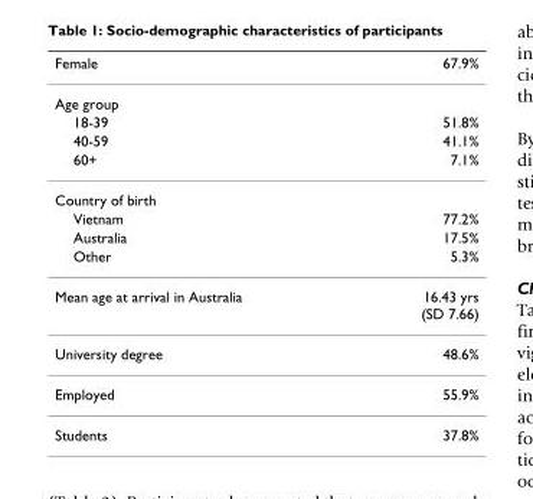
<table><thead><tr><td>Female</td><td>67.9%</td></tr></thead><tbody><tr><td colspan="2">Age group</td></tr><tr><td>18-39</td><td>51.8%</td></tr><tr><td>40-59</td><td>41.1%</td></tr><tr><td>60+</td><td>7.1%</td></tr><tr><td colspan="2">Country of birth</td></tr><tr><td>Vietnam</td><td>77.2%</td></tr><tr><td>Australia</td><td>17.5%</td></tr><tr><td>Other</td><td>5.3%</td></tr><tr><td>Mean age at arrival in Australia</td><td>16.43 yrs (SD 7.66)</td></tr><tr><td>University degree</td><td>48.6%</td></tr><tr><td>Employed</td><td>55.9%</td></tr><tr><td>Students</td><td>37.8%</td></tr></tbody></table>